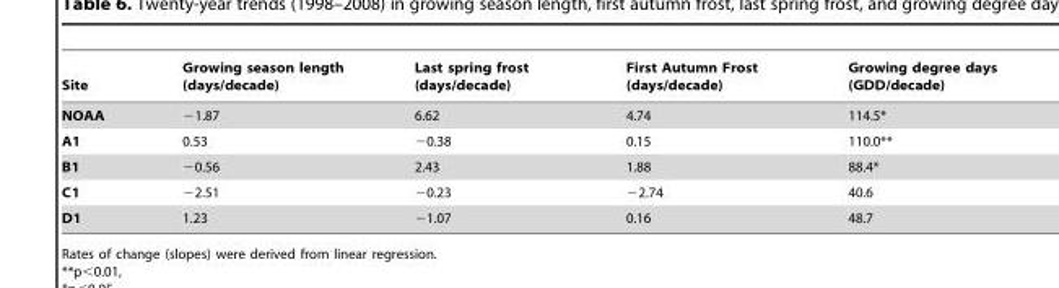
<table><thead><tr><td>Site</td><td>Growing season length (days/decade)</td><td>Last spring frost (days/decade)</td><td>First Autumn Frost (days/decade)</td><td>Growing degree days (GDD/decade)</td></tr></thead><tbody><tr><td>NOAA</td><td>−1.87</td><td>6.62</td><td>4.74</td><td>114.5*</td></tr><tr><td>A1</td><td>0.53</td><td>−0.38</td><td>0.15</td><td>110.0**</td></tr><tr><td>B1</td><td>−0.56</td><td>2.43</td><td>1.88</td><td>88.4*</td></tr><tr><td>C1</td><td>−2.51</td><td>−0.23</td><td>−2.74</td><td>40.6</td></tr><tr><td>D1</td><td>1.23</td><td>−1.07</td><td>0.16</td><td>48.7</td></tr></tbody></table>